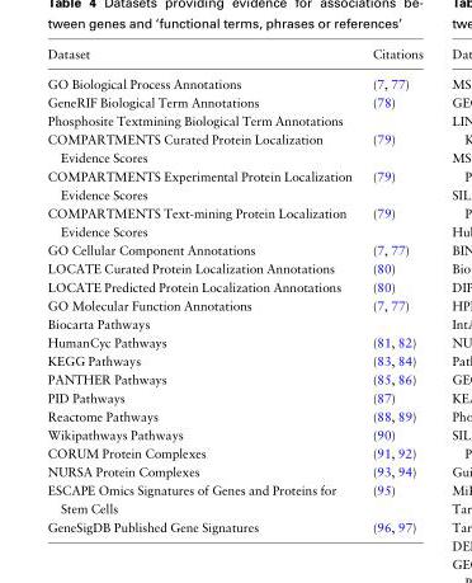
<table><thead><tr><td>Dataset</td><td>Citations</td></tr></thead><tbody><tr><td>GO Biological Process Annotations</td><td>(7, 77)</td></tr><tr><td>GeneRIF Biological Term Annotations</td><td>(78)</td></tr><tr><td colspan="2">Phosphosite Textmining Biological Term Annotations</td></tr><tr><td>COMPARTMENTS Curated Protein Localization Evidence Scores</td><td>(79)</td></tr><tr><td>COMPARTMENTS Experimental Protein Localization Evidence Scores</td><td>(79)</td></tr><tr><td>COMPARTMENTS Text-mining Protein Localization Evidence Scores</td><td>(79)</td></tr><tr><td>GO Cellular Component Annotations</td><td>(7, 77)</td></tr><tr><td>LOCATE Curated Protein Localization Annotations</td><td>(80)</td></tr><tr><td>LOCATE Predicted Protein Localization Annotations</td><td>(80)</td></tr><tr><td>GO Molecular Function Annotations</td><td>(7, 77)</td></tr><tr><td colspan="2">Biocarta Pathways</td></tr><tr><td>HumanCyc Pathways</td><td>(81, 82)</td></tr><tr><td>KEGG Pathways</td><td>(83, 84)</td></tr><tr><td>PANTHER Pathways</td><td>(85, 86)</td></tr><tr><td>PID Pathways</td><td>(87)</td></tr><tr><td>Reactome Pathways</td><td>(88, 89)</td></tr><tr><td>Wikipathways Pathways</td><td>(90)</td></tr><tr><td>CORUM Protein Complexes</td><td>(91, 92)</td></tr><tr><td>NURSA Protein Complexes</td><td>(93, 94)</td></tr><tr><td>ESCAPE Omics Signatures of Genes and Proteins for Stem Cells</td><td>(95)</td></tr><tr><td>GeneSigDB Published Gene Signatures</td><td>(96, 97)</td></tr></tbody></table>